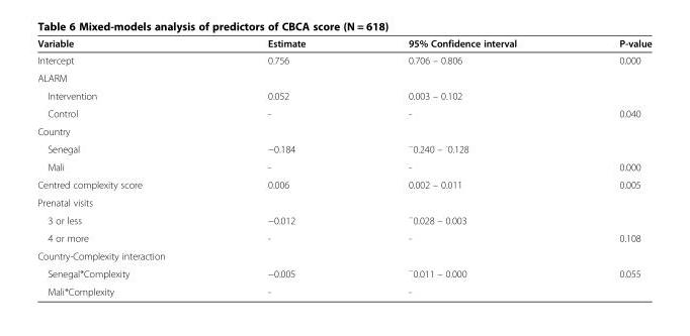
<table><thead><tr><td>Variable</td><td>Estimate</td><td>95% Confidence interval</td><td>P-value</td></tr></thead><tbody><tr><td>Intercept</td><td>0.756</td><td>0.706 – 0.806</td><td>0.000</td></tr><tr><td colspan="4">ALARM</td></tr><tr><td>Intervention</td><td>0.052</td><td>0.003 – 0.102</td><td></td></tr><tr><td>Control</td><td>-</td><td>-</td><td>0.040</td></tr><tr><td colspan="4">Country</td></tr><tr><td>Senegal</td><td>−0.184</td><td><sup>−</sup>0.240 – <sup>-</sup>0.128</td><td></td></tr><tr><td>Mali</td><td>-</td><td>-</td><td>0.000</td></tr><tr><td>Centred complexity score</td><td>0.006</td><td>0.002 – 0.011</td><td>0.005</td></tr><tr><td colspan="4">Prenatal visits</td></tr><tr><td>3 or less</td><td>−0.012</td><td><sup>−</sup>0.028 – 0.003</td><td></td></tr><tr><td>4 or more</td><td>-</td><td>-</td><td>0.108</td></tr><tr><td colspan="4">Country-Complexity interaction</td></tr><tr><td>Senegal*Complexity</td><td>−0.005</td><td><sup>−</sup>0.011 – 0.000</td><td>0.055</td></tr><tr><td>Mali*Complexity</td><td>-</td><td>-</td><td></td></tr></tbody></table>